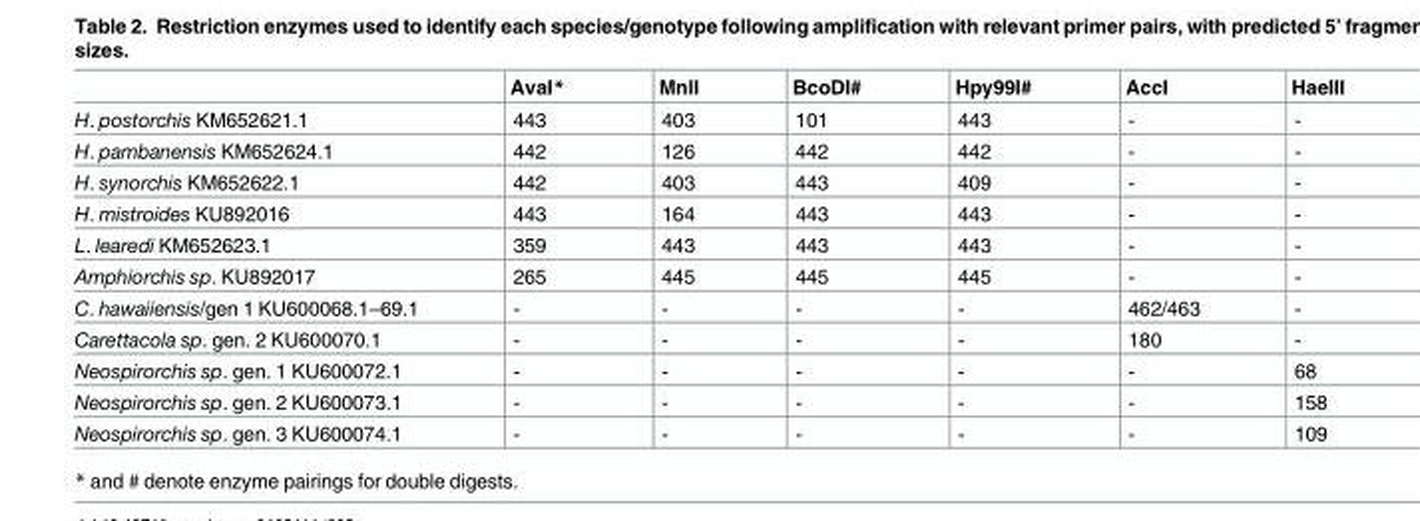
<table><thead><tr><td></td><td>AvaI*</td><td>MnlI</td><td>BcoDI#</td><td>Hpy99I#</td><td>AccI</td><td>HaeIII</td></tr></thead><tbody><tr><td>H. postorchis KM652621.1</td><td>443</td><td>403</td><td>101</td><td>443</td><td>-</td><td>-</td></tr><tr><td>H. pambanensis KM652624.1</td><td>442</td><td>126</td><td>442</td><td>442</td><td>-</td><td>-</td></tr><tr><td>H. synorchis KM652622.1</td><td>442</td><td>403</td><td>443</td><td>409</td><td>-</td><td>-</td></tr><tr><td>H. mistroides KU892016</td><td>443</td><td>164</td><td>443</td><td>443</td><td>-</td><td>-</td></tr><tr><td>L. learedi KM652623.1</td><td>359</td><td>443</td><td>443</td><td>443</td><td>-</td><td>-</td></tr><tr><td>Amphiorchis sp. KU892017</td><td>265</td><td>445</td><td>445</td><td>445</td><td>-</td><td>-</td></tr><tr><td>C. hawaiiensis/gen 1 KU600068.1–69.1</td><td>-</td><td>-</td><td>-</td><td>-</td><td>462/463</td><td>-</td></tr><tr><td>Carettacola sp. gen. 2 KU600070.1</td><td>-</td><td>-</td><td>-</td><td>-</td><td>180</td><td>-</td></tr><tr><td>Neospirorchis sp. gen. 1 KU600072.1</td><td>-</td><td>-</td><td>-</td><td>-</td><td>-</td><td>68</td></tr><tr><td>Neospirorchis sp. gen. 2 KU600073.1</td><td>-</td><td>-</td><td>-</td><td>-</td><td>-</td><td>158</td></tr><tr><td>Neospirorchis sp. gen. 3 KU600074.1</td><td>-</td><td>-</td><td>-</td><td>-</td><td>-</td><td>109</td></tr></tbody></table>